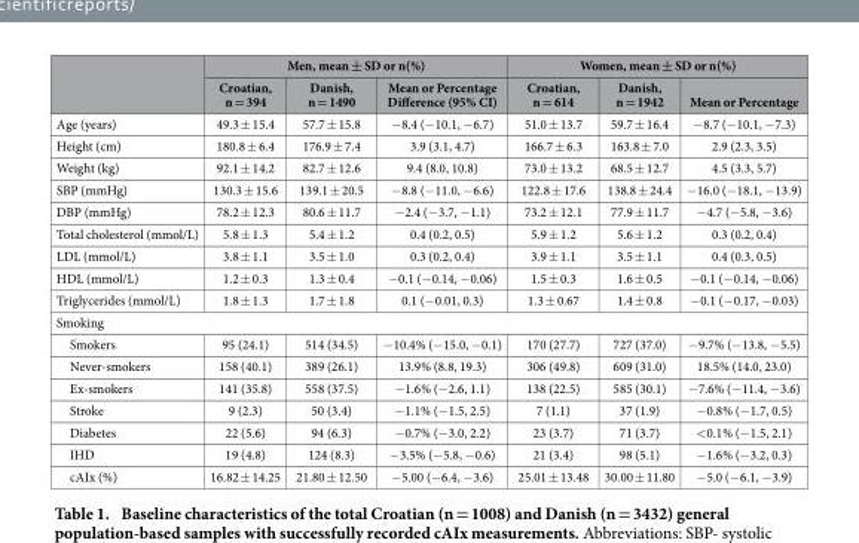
<table><thead><tr><td rowspan="2"></td><td colspan="3">Men, mean ± SD or n(%)</td><td colspan="3">Women, mean ± SD or n(%)</td></tr><tr><td>Croatian, n = 394</td><td>Danish, n = 1490</td><td>Mean or Percentage Difference (95% CI)</td><td>Croatian, n = 614</td><td>Danish, n = 1942</td><td>Mean or Percentage</td></tr></thead><tbody><tr><td>Age (years)</td><td>49.3 ± 15.4</td><td>57.7 ± 15.8</td><td>− 8.4 (− 10.1, − 6.7)</td><td>51.0 ± 13.7</td><td>59.7 ± 16.4</td><td>− 8.7 (− 10.1, − 7.3)</td></tr><tr><td>Height (cm)</td><td>180.8 ± 6.4</td><td>176.9 ± 7.4</td><td>3.9 (3.1, 4.7)</td><td>166.7 ± 6.3</td><td>163.8 ± 7.0</td><td>2.9 (2.3, 3.5)</td></tr><tr><td>Weight (kg)</td><td>92.1 ± 14.2</td><td>82.7 ± 12.6</td><td>9.4 (8.0, 10.8)</td><td>73.0 ± 13.2</td><td>68.5 ± 12.7</td><td>4.5 (3.3, 5.7)</td></tr><tr><td>SBP (mmHg)</td><td>130.3 ± 15.6</td><td>139.1 ± 20.5</td><td>− 8.8 (− 11.0, − 6.6)</td><td>122.8 ± 17.6</td><td>138.8 ± 24.4</td><td>− 16.0 (− 18.1, − 13.9)</td></tr><tr><td>DBP (mmHg)</td><td>78.2 ± 12.3</td><td>80.6 ± 11.7</td><td>− 2.4 (− 3.7, − 1.1)</td><td>73.2 ± 12.1</td><td>77.9 ± 11.7</td><td>− 4.7 (− 5.8, − 3.6)</td></tr><tr><td>Total cholesterol (mmol/L)</td><td>5.8 ± 1.3</td><td>5.4 ± 1.2</td><td>0.4 (0.2, 0.5)</td><td>5.9 ± 1.2</td><td>5.6 ± 1.2</td><td>0.3 (0.2, 0.4)</td></tr><tr><td>LDL (mmol/L)</td><td>3.8 ± 1.1</td><td>3.5 ± 1.0</td><td>0.3 (0.2, 0.4)</td><td>3.9 ± 1.1</td><td>3.5 ± 1.1</td><td>0.4 (0.3, 0.5)</td></tr><tr><td>HDL (mmol/L)</td><td>1.2 ± 0.3</td><td>1.3 ± 0.4</td><td>− 0.1 (− 0.14, − 0.06)</td><td>1.5 ± 0.3</td><td>1.6 ± 0.5</td><td>− 0.1 (− 0.14, − 0.06)</td></tr><tr><td>Triglycerides (mmol/L)</td><td>1.8 ± 1.3</td><td>1.7 ± 1.8</td><td>0.1 (− 0.01, 0.3)</td><td>1.3 ± 0.67</td><td>1.4 ± 0.8</td><td>− 0.1 (− 0.17, − 0.03)</td></tr><tr><td colspan="7">Smoking</td></tr><tr><td>Smokers</td><td>95 (24.1)</td><td>514 (34.5)</td><td>− 10.4% (− 15.0, − 0.1)</td><td>170 (27.7)</td><td>727 (37.0)</td><td>− 9.7% (− 13.8, − 5.5)</td></tr><tr><td>Never-smokers</td><td>158 (40.1)</td><td>389 (26.1)</td><td>13.9% (8.8, 19.3)</td><td>306 (49.8)</td><td>609 (31.0)</td><td>18.5% (14.0, 23.0)</td></tr><tr><td>Ex-smokers</td><td>141 (35.8)</td><td>558 (37.5)</td><td>− 1.6% (− 2.6, 1.1)</td><td>138 (22.5)</td><td>585 (30.1)</td><td>− 7.6% (− 11.4, − 3.6)</td></tr><tr><td>Stroke</td><td>9 (2.3)</td><td>50 (3.4)</td><td>− 1.1% (− 1.5, 2.5)</td><td>7 (1.1)</td><td>37 (1.9)</td><td>− 0.8% (− 1.7, 0.5)</td></tr><tr><td>Diabetes</td><td>22 (5.6)</td><td>94 (6.3)</td><td>− 0.7% (− 3.0, 2.2)</td><td>23 (3.7)</td><td>71 (3.7)</td><td>&lt; 0.1% (− 1.5, 2.1)</td></tr><tr><td>IHD</td><td>19 (4.8)</td><td>124 (8.3)</td><td>− 3.5% (− 5.8, − 0.6)</td><td>21 (3.4)</td><td>98 (5.1)</td><td>− 1.6% (− 3.2, 0.3)</td></tr><tr><td>cAIx (%)</td><td>16.82 ± 14.25</td><td>21.80 ± 12.50</td><td>− 5.00 (− 6.4, − 3.6)</td><td>25.01 ± 13.48</td><td>30.00 ± 11.80</td><td>− 5.0 (− 6.1, − 3.9)</td></tr></tbody></table>